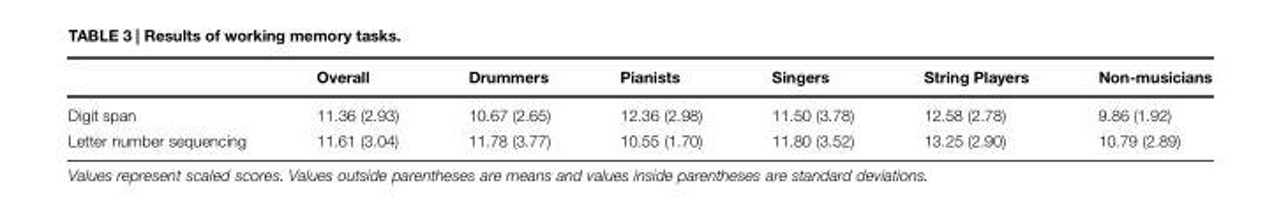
<table><thead><tr><td></td><td>Overall</td><td>Drummers</td><td>Pianists</td><td>Singers</td><td>String Players</td><td>Non-musicians</td></tr></thead><tbody><tr><td>Digit span</td><td>11.36 (2.93)</td><td>10.67 (2.65)</td><td>12.36 (2.98)</td><td>11.50 (3.78)</td><td>12.58 (2.78)</td><td>9.86 (1.92)</td></tr><tr><td>Letter number sequencing</td><td>11.61 (3.04)</td><td>11.78 (3.77)</td><td>10.55 (1.70)</td><td>11.80 (3.52)</td><td>13.25 (2.90)</td><td>10.79 (2.89)</td></tr></tbody></table>